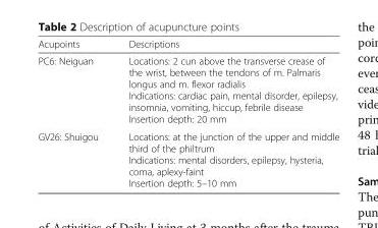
<table><thead><tr><td>Acupoints</td><td>Descriptions</td></tr></thead><tbody><tr><td>PC6: Neiguan</td><td>Locations: 2 cun above the transverse crease of the wrist, between the tendons of m. Palmaris longus and m. flexor radialis Indications: cardiac pain, mental disorder, epilepsy, insomnia, vomiting, hiccup, febrile disease Insertion depth: 20 mm</td></tr><tr><td>GV26: Shuigou</td><td>Locations: at the junction of the upper and middle third of the philtrum Indications: mental disorders, epilepsy, hysteria, coma, aplexy-faint Insertion depth: 5–10 mm</td></tr></tbody></table>